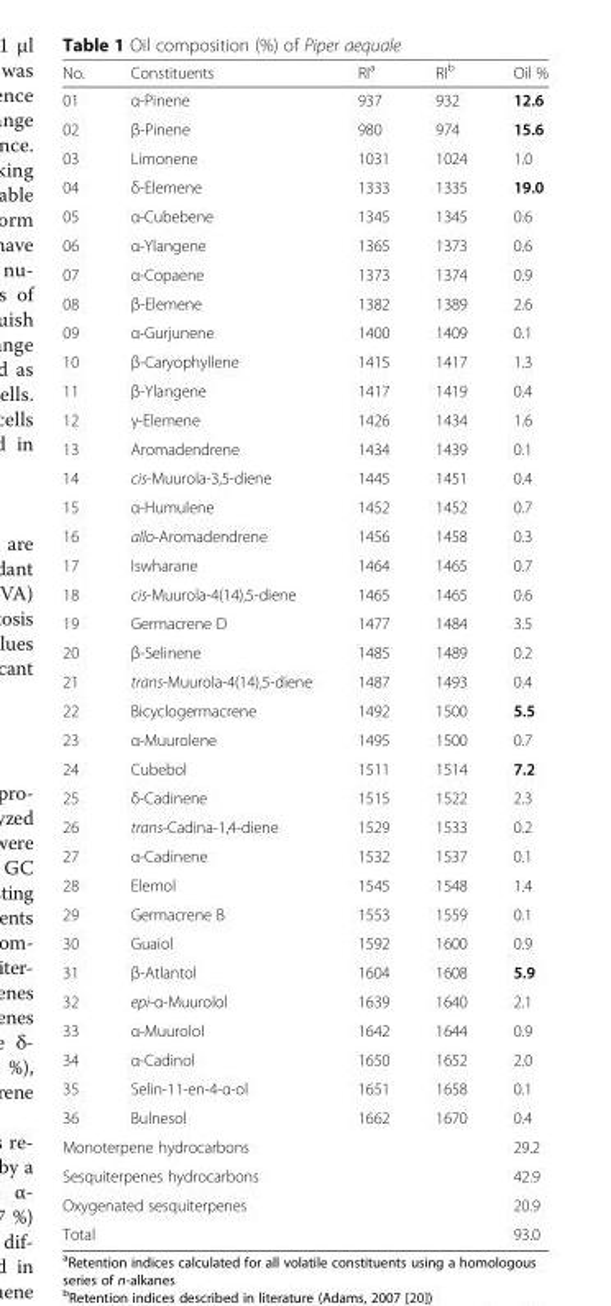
<table><thead><tr><td>No.</td><td>Constituents</td><td>RI<sup>a</sup></td><td>RI<sup>b</sup></td><td>Oil %</td></tr></thead><tbody><tr><td>01</td><td>α-Pinene</td><td>937</td><td>932</td><td>12.6</td></tr><tr><td>02</td><td>β-Pinene</td><td>980</td><td>974</td><td>15.6</td></tr><tr><td>03</td><td>Limonene</td><td>1031</td><td>1024</td><td>1.0</td></tr><tr><td>04</td><td>δ-Elemene</td><td>1333</td><td>1335</td><td>19.0</td></tr><tr><td>05</td><td>α-Cubebene</td><td>1345</td><td>1345</td><td>0.6</td></tr><tr><td>06</td><td>α-Ylangene</td><td>1365</td><td>1373</td><td>0.6</td></tr><tr><td>07</td><td>α-Copaene</td><td>1373</td><td>1374</td><td>0.9</td></tr><tr><td>08</td><td>β-Elemene</td><td>1382</td><td>1389</td><td>2.6</td></tr><tr><td>09</td><td>α-Gurjunene</td><td>1400</td><td>1409</td><td>0.1</td></tr><tr><td>10</td><td>β-Caryophyllene</td><td>1415</td><td>1417</td><td>1.3</td></tr><tr><td>11</td><td>β-Ylangene</td><td>1417</td><td>1419</td><td>0.4</td></tr><tr><td>12</td><td>γ-Elemene</td><td>1426</td><td>1434</td><td>1.6</td></tr><tr><td>13</td><td>Aromadendrene</td><td>1434</td><td>1439</td><td>0.1</td></tr><tr><td>14</td><td>cis-Muurola-3,5-diene</td><td>1445</td><td>1451</td><td>0.4</td></tr><tr><td>15</td><td>α-Humulene</td><td>1452</td><td>1452</td><td>0.7</td></tr><tr><td>16</td><td>allo-Aromadendrene</td><td>1456</td><td>1458</td><td>0.3</td></tr><tr><td>17</td><td>Iswharane</td><td>1464</td><td>1465</td><td>0.7</td></tr><tr><td>18</td><td>cis-Muurola-4(14),5-diene</td><td>1465</td><td>1465</td><td>0.6</td></tr><tr><td>19</td><td>Germacrene D</td><td>1477</td><td>1484</td><td>3.5</td></tr><tr><td>20</td><td>β-Selinene</td><td>1485</td><td>1489</td><td>0.2</td></tr><tr><td>21</td><td>trans-Muurola-4(14),5-diene</td><td>1487</td><td>1493</td><td>0.4</td></tr><tr><td>22</td><td>Bicyclogermacrene</td><td>1492</td><td>1500</td><td>5.5</td></tr><tr><td>23</td><td>α-Muurolene</td><td>1495</td><td>1500</td><td>0.7</td></tr><tr><td>24</td><td>Cubebol</td><td>1511</td><td>1514</td><td>7.2</td></tr><tr><td>25</td><td>δ-Cadinene</td><td>1515</td><td>1522</td><td>2.3</td></tr><tr><td>26</td><td>trans-Cadina-1,4-diene</td><td>1529</td><td>1533</td><td>0.2</td></tr><tr><td>27</td><td>α-Cadinene</td><td>1532</td><td>1537</td><td>0.1</td></tr><tr><td>28</td><td>Elemol</td><td>1545</td><td>1548</td><td>1.4</td></tr><tr><td>29</td><td>Germacrene B</td><td>1553</td><td>1559</td><td>0.1</td></tr><tr><td>30</td><td>Guaiol</td><td>1592</td><td>1600</td><td>0.9</td></tr><tr><td>31</td><td>β-Atlantol</td><td>1604</td><td>1608</td><td>5.9</td></tr><tr><td>32</td><td>epi-α-Muurolol</td><td>1639</td><td>1640</td><td>2.1</td></tr><tr><td>33</td><td>α-Muurolol</td><td>1642</td><td>1644</td><td>0.9</td></tr><tr><td>34</td><td>α-Cadinol</td><td>1650</td><td>1652</td><td>2.0</td></tr><tr><td>35</td><td>Selin-11-en-4-α-ol</td><td>1651</td><td>1658</td><td>0.1</td></tr><tr><td>36</td><td>Bulnesol</td><td>1662</td><td>1670</td><td>0.4</td></tr><tr><td colspan="4">Monoterpene hydrocarbons</td><td>29.2</td></tr><tr><td colspan="4">Sesquiterpenes hydrocarbons</td><td>42.9</td></tr><tr><td colspan="4">Oxygenated sesquiterpenes</td><td>20.9</td></tr><tr><td colspan="4">Total</td><td>93.0</td></tr></tbody></table>